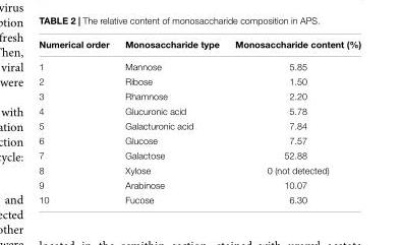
<table><thead><tr><td>Numerical order</td><td>Monosaccharide type</td><td>Monosaccharide content (%)</td></tr></thead><tbody><tr><td>1</td><td>Mannose</td><td>5.85</td></tr><tr><td>2</td><td>Ribose</td><td>1.50</td></tr><tr><td>3</td><td>Rhamnose</td><td>2.20</td></tr><tr><td>4</td><td>Glucuronic acid</td><td>5.78</td></tr><tr><td>5</td><td>Galacturonic acid</td><td>7.84</td></tr><tr><td>6</td><td>Glucose</td><td>7.57</td></tr><tr><td>7</td><td>Galactose</td><td>52.88</td></tr><tr><td>8</td><td>Xylose</td><td>0 (not detected)</td></tr><tr><td>9</td><td>Arabinose</td><td>10.07</td></tr><tr><td>10</td><td>Fucose</td><td>6.30</td></tr></tbody></table>